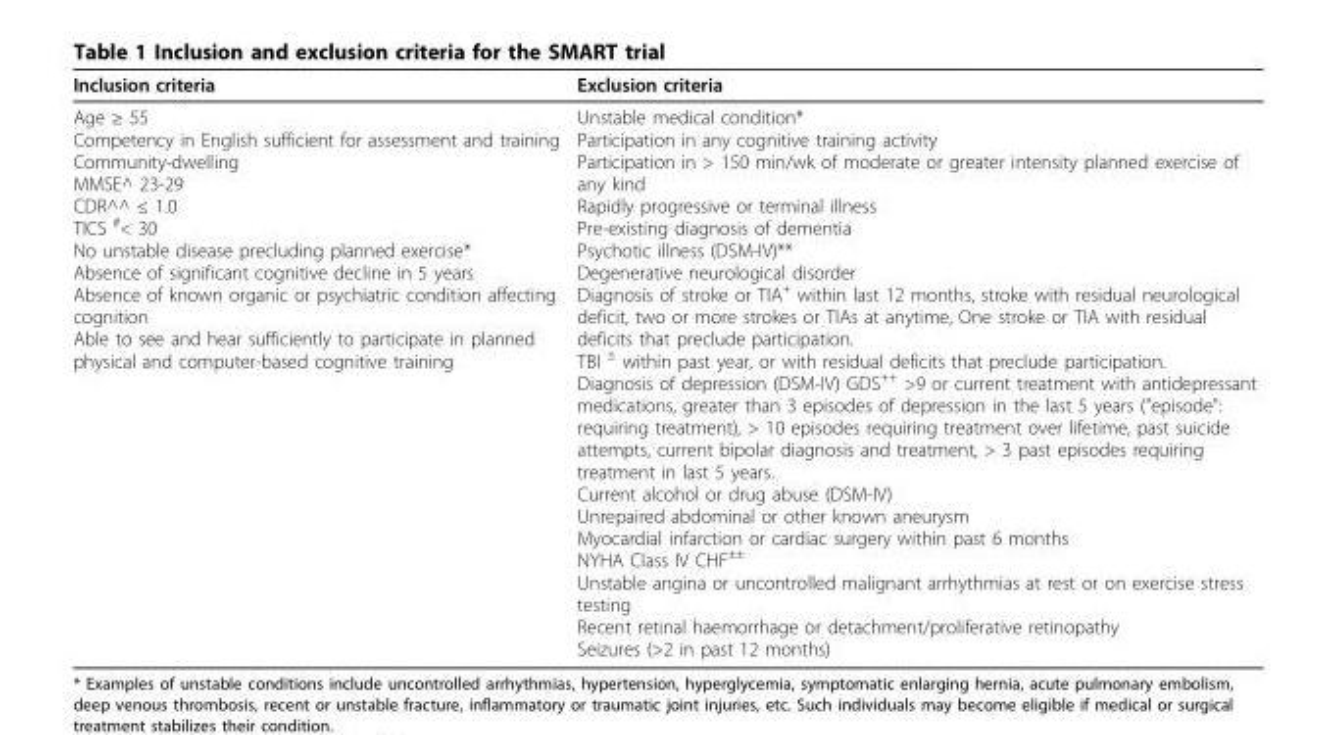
<table><thead><tr><td>Inclusion criteria</td><td>Exclusion criteria</td></tr></thead><tbody><tr><td>Age ≥ 55 Competency in English sufficient for assessment and training Community-dwelling MMSE^ 23-29 CDR^^ ≤ 1.0 TICS <sup>#</sup>&lt; 30 No unstable disease precluding planned exercise* Absence of significant cognitive decline in 5 years Absence of known organic or psychiatric condition affecting cognition Able to see and hear sufficiently to participate in planned physical and computer-based cognitive training</td><td>Unstable medical condition* Participation in any cognitive training activity Participation in &gt; 150 min/wk of moderate or greater intensity planned exercise of any kind Rapidly progressive or terminal illness Pre-existing diagnosis of dementia Psychotic illness (DSM-IV)** Degenerative neurological disorder Diagnosis of stroke or TIA<sup>+</sup> within last 12 months, stroke with residual neurological deficit, two or more strokes or TIAs at anytime, One stroke or TIA with residual deficits that preclude participation. TBI <sup>±</sup> within past year, or with residual deficits that preclude participation. Diagnosis of depression (DSM-IV) GDS<sup>++</sup> &gt;9 or current treatment with antidepressant medications, greater than 3 episodes of depression in the last 5 years (&quot;episode&quot;: requiring treatment), &gt; 10 episodes requiring treatment over lifetime, past suicide attempts, current bipolar diagnosis and treatment, &gt; 3 past episodes requiring treatment in last 5 years. Current alcohol or drug abuse (DSM-IV) Unrepaired abdominal or other known aneurysm Myocardial infarction or cardiac surgery within past 6 months NYHA Class IV CHF<sup>±±</sup> Unstable angina or uncontrolled malignant arrhythmias at rest or on exercise stress testing Recent retinal haemorrhage or detachment/proliferative retinopathy Seizures (&gt;2 in past 12 months)</td></tr></tbody></table>